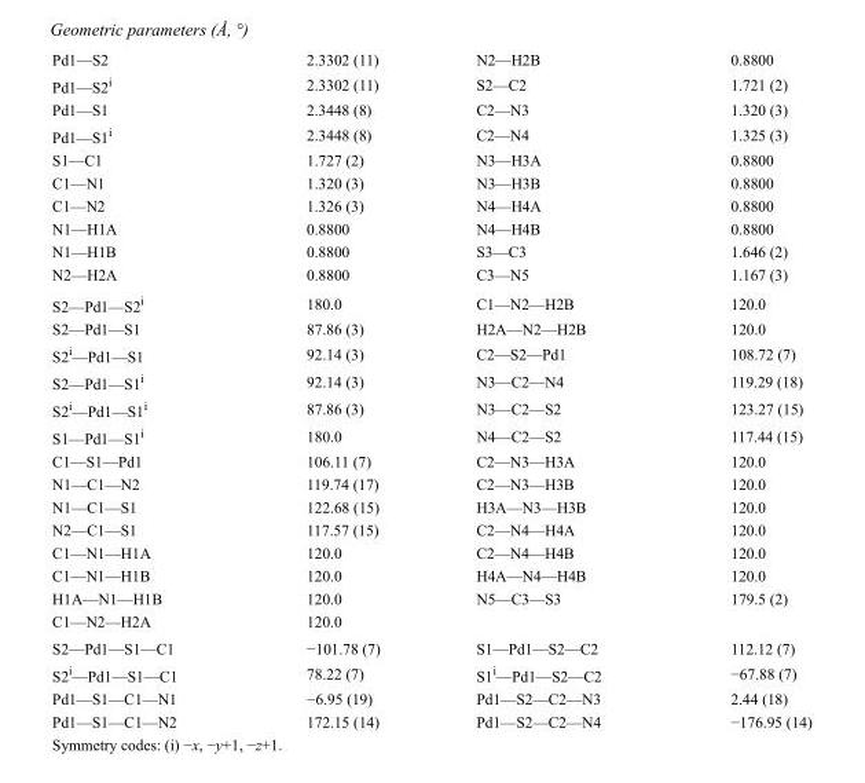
<table><tbody><tr><td>Pd1—S2</td><td>2.3302 (11)</td><td>N2—H2B</td><td>0.8800</td></tr><tr><td>Pd1—S2<sup>i</sup></td><td>2.3302 (11)</td><td>S2—C2</td><td>1.721 (2)</td></tr><tr><td>Pd1—S1</td><td>2.3448 (8)</td><td>C2—N3</td><td>1.320 (3)</td></tr><tr><td>Pd1—S1<sup>i</sup></td><td>2.3448 (8)</td><td>C2—N4</td><td>1.325 (3)</td></tr><tr><td>S1—C1</td><td>1.727 (2)</td><td>N3—H3A</td><td>0.8800</td></tr><tr><td>C1—N1</td><td>1.320 (3)</td><td>N3—H3B</td><td>0.8800</td></tr><tr><td>C1—N2</td><td>1.326 (3)</td><td>N4—H4A</td><td>0.8800</td></tr><tr><td>N1—H1A</td><td>0.8800</td><td>N4—H4B</td><td>0.8800</td></tr><tr><td>N1—H1B</td><td>0.8800</td><td>S3—C3</td><td>1.646 (2)</td></tr><tr><td>N2—H2A</td><td>0.8800</td><td>C3—N5</td><td>1.167 (3)</td></tr><tr><td>S2—Pd1—S2<sup>i</sup></td><td>180.0</td><td>C1—N2—H2B</td><td>120.0</td></tr><tr><td>S2—Pd1—S1</td><td>87.86 (3)</td><td>H2A—N2—H2B</td><td>120.0</td></tr><tr><td>S2<sup>i</sup>—Pd1—S1</td><td>92.14 (3)</td><td>C2—S2—Pd1</td><td>108.72 (7)</td></tr><tr><td>S2—Pd1—S1<sup>i</sup></td><td>92.14 (3)</td><td>N3—C2—N4</td><td>119.29 (18)</td></tr><tr><td>S2<sup>i</sup>—Pd1—S1<sup>i</sup></td><td>87.86 (3)</td><td>N3—C2—S2</td><td>123.27 (15)</td></tr><tr><td>S1—Pd1—S1<sup>i</sup></td><td>180.0</td><td>N4—C2—S2</td><td>117.44 (15)</td></tr><tr><td>C1—S1—Pd1</td><td>106.11 (7)</td><td>C2—N3—H3A</td><td>120.0</td></tr><tr><td>N1—C1—N2</td><td>119.74 (17)</td><td>C2—N3—H3B</td><td>120.0</td></tr><tr><td>N1—C1—S1</td><td>122.68 (15)</td><td>H3A—N3—H3B</td><td>120.0</td></tr><tr><td>N2—C1—S1</td><td>117.57 (15)</td><td>C2—N4—H4A</td><td>120.0</td></tr><tr><td>C1—N1—H1A</td><td>120.0</td><td>C2—N4—H4B</td><td>120.0</td></tr><tr><td>C1—N1—H1B</td><td>120.0</td><td>H4A—N4—H4B</td><td>120.0</td></tr><tr><td>H1A—N1—H1B</td><td>120.0</td><td>N5—C3—S3</td><td>179.5 (2)</td></tr><tr><td>C1—N2—H2A</td><td>120.0</td><td></td><td></td></tr><tr><td>S2—Pd1—S1—C1</td><td>−101.78 (7)</td><td>S1—Pd1—S2—C2</td><td>112.12 (7)</td></tr><tr><td>S2<sup>i</sup>—Pd1—S1—C1</td><td>78.22 (7)</td><td>S1<sup>i</sup>—Pd1—S2—C2</td><td>−67.88 (7)</td></tr><tr><td>Pd1—S1—C1—N1</td><td>−6.95 (19)</td><td>Pd1—S2—C2—N3</td><td>2.44 (18)</td></tr><tr><td>Pd1—S1—C1—N2</td><td>172.15 (14)</td><td>Pd1—S2—C2—N4</td><td>−176.95 (14)</td></tr></tbody></table>